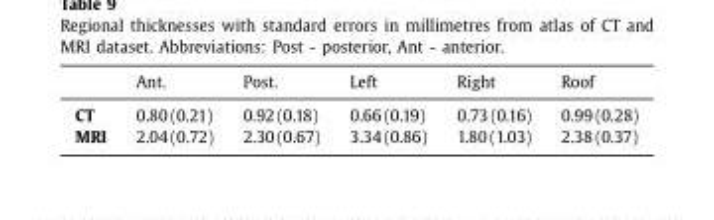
<table><thead><tr><td></td><td>Ant.</td><td>Post.</td><td>Left</td><td>Right</td><td>Roof</td></tr></thead><tbody><tr><td>CT</td><td>0.80 (0.21)</td><td>0.92 (0.18)</td><td>0.66 (0.19)</td><td>0.73 (0.16)</td><td>0.99 (0.28)</td></tr><tr><td>MRI</td><td>2.04 (0.72)</td><td>2.30 (0.67)</td><td>3.34 (0.86)</td><td>1.80 (1.03)</td><td>2.38 (0.37)</td></tr></tbody></table>